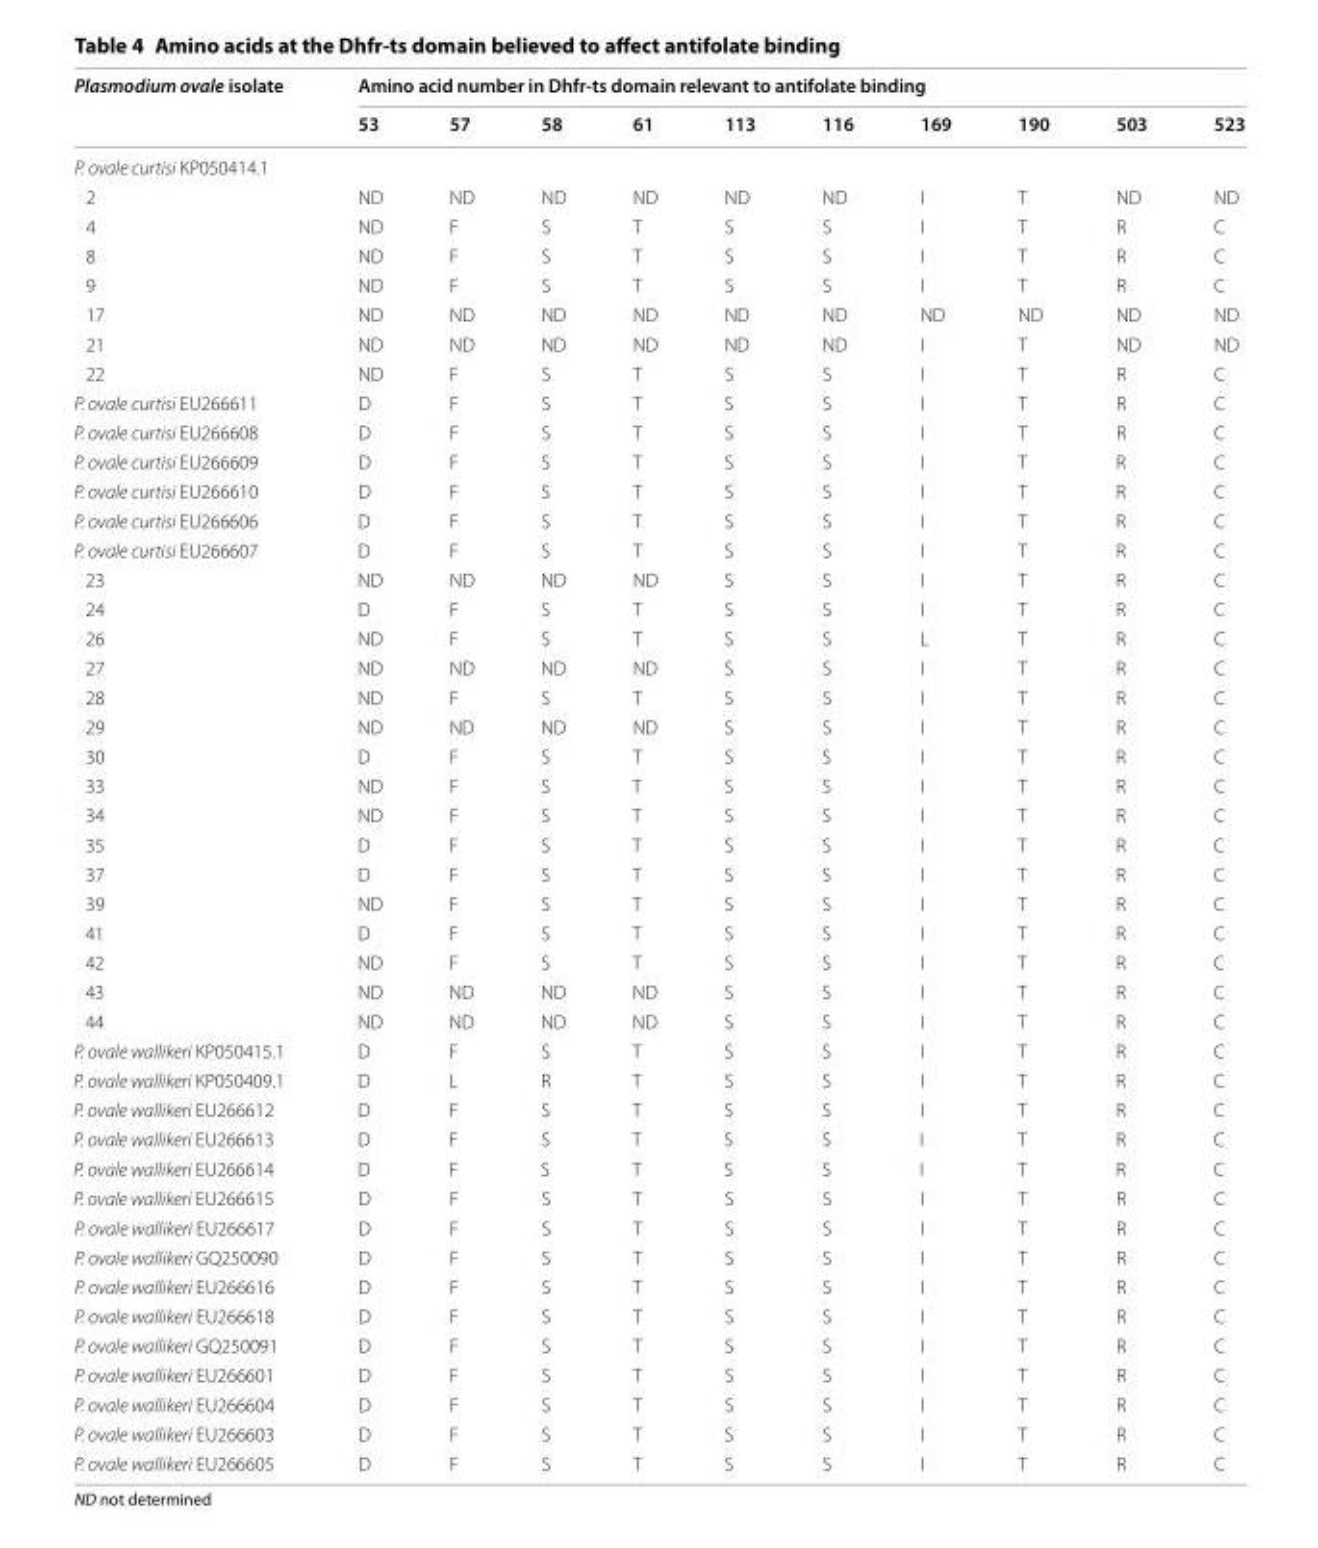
<table><thead><tr><td rowspan="2">Plasmodium ovale isolate</td><td colspan="10">Amino acid number in Dhfr‑ts domain relevant to antifolate binding</td></tr><tr><td>53</td><td>57</td><td>58</td><td>61</td><td>113</td><td>116</td><td>169</td><td>190</td><td>503</td><td>523</td></tr></thead><tbody><tr><td colspan="11">P. ovale curtisi KP050414.1</td></tr><tr><td>2</td><td>ND</td><td>ND</td><td>ND</td><td>ND</td><td>ND</td><td>ND</td><td>I</td><td>T</td><td>ND</td><td>ND</td></tr><tr><td>4</td><td>ND</td><td>F</td><td>S</td><td>T</td><td>S</td><td>S</td><td>I</td><td>T</td><td>R</td><td>C</td></tr><tr><td>8</td><td>ND</td><td>F</td><td>S</td><td>T</td><td>S</td><td>S</td><td>I</td><td>T</td><td>R</td><td>C</td></tr><tr><td>9</td><td>ND</td><td>F</td><td>S</td><td>T</td><td>S</td><td>S</td><td>I</td><td>T</td><td>R</td><td>C</td></tr><tr><td>17</td><td>ND</td><td>ND</td><td>ND</td><td>ND</td><td>ND</td><td>ND</td><td>ND</td><td>ND</td><td>ND</td><td>ND</td></tr><tr><td>21</td><td>ND</td><td>ND</td><td>ND</td><td>ND</td><td>ND</td><td>ND</td><td>I</td><td>T</td><td>ND</td><td>ND</td></tr><tr><td>22</td><td>ND</td><td>F</td><td>S</td><td>T</td><td>S</td><td>S</td><td>I</td><td>T</td><td>R</td><td>C</td></tr><tr><td>P. ovale curtisi EU266611</td><td>D</td><td>F</td><td>S</td><td>T</td><td>S</td><td>S</td><td>I</td><td>T</td><td>R</td><td>C</td></tr><tr><td>P. ovale curtisi EU266608</td><td>D</td><td>F</td><td>S</td><td>T</td><td>S</td><td>S</td><td>I</td><td>T</td><td>R</td><td>C</td></tr><tr><td>P. ovale curtisi EU266609</td><td>D</td><td>F</td><td>S</td><td>T</td><td>S</td><td>S</td><td>I</td><td>T</td><td>R</td><td>C</td></tr><tr><td>P. ovale curtisi EU266610</td><td>D</td><td>F</td><td>S</td><td>T</td><td>S</td><td>S</td><td>I</td><td>T</td><td>R</td><td>C</td></tr><tr><td>P. ovale curtisi EU266606</td><td>D</td><td>F</td><td>S</td><td>T</td><td>S</td><td>S</td><td>I</td><td>T</td><td>R</td><td>C</td></tr><tr><td>P. ovale curtisi EU266607</td><td>D</td><td>F</td><td>S</td><td>T</td><td>S</td><td>S</td><td>I</td><td>T</td><td>R</td><td>C</td></tr><tr><td>23</td><td>ND</td><td>ND</td><td>ND</td><td>ND</td><td>S</td><td>S</td><td>I</td><td>T</td><td>R</td><td>C</td></tr><tr><td>24</td><td>D</td><td>F</td><td>S</td><td>T</td><td>S</td><td>S</td><td>I</td><td>T</td><td>R</td><td>C</td></tr><tr><td>26</td><td>ND</td><td>F</td><td>S</td><td>T</td><td>S</td><td>S</td><td>L</td><td>T</td><td>R</td><td>C</td></tr><tr><td>27</td><td>ND</td><td>ND</td><td>ND</td><td>ND</td><td>S</td><td>S</td><td>I</td><td>T</td><td>R</td><td>C</td></tr><tr><td>28</td><td>ND</td><td>F</td><td>S</td><td>T</td><td>S</td><td>S</td><td>I</td><td>T</td><td>R</td><td>C</td></tr><tr><td>29</td><td>ND</td><td>ND</td><td>ND</td><td>ND</td><td>S</td><td>S</td><td>I</td><td>T</td><td>R</td><td>C</td></tr><tr><td>30</td><td>D</td><td>F</td><td>S</td><td>T</td><td>S</td><td>S</td><td>I</td><td>T</td><td>R</td><td>C</td></tr><tr><td>33</td><td>ND</td><td>F</td><td>S</td><td>T</td><td>S</td><td>S</td><td>I</td><td>T</td><td>R</td><td>C</td></tr><tr><td>34</td><td>ND</td><td>F</td><td>S</td><td>T</td><td>S</td><td>S</td><td>I</td><td>T</td><td>R</td><td>C</td></tr><tr><td>35</td><td>D</td><td>F</td><td>S</td><td>T</td><td>S</td><td>S</td><td>I</td><td>T</td><td>R</td><td>C</td></tr><tr><td>37</td><td>D</td><td>F</td><td>S</td><td>T</td><td>S</td><td>S</td><td>I</td><td>T</td><td>R</td><td>C</td></tr><tr><td>39</td><td>ND</td><td>F</td><td>S</td><td>T</td><td>S</td><td>S</td><td>I</td><td>T</td><td>R</td><td>C</td></tr><tr><td>41</td><td>D</td><td>F</td><td>S</td><td>T</td><td>S</td><td>S</td><td>I</td><td>T</td><td>R</td><td>C</td></tr><tr><td>42</td><td>ND</td><td>F</td><td>S</td><td>T</td><td>S</td><td>S</td><td>I</td><td>T</td><td>R</td><td>C</td></tr><tr><td>43</td><td>ND</td><td>ND</td><td>ND</td><td>ND</td><td>S</td><td>S</td><td>I</td><td>T</td><td>R</td><td>C</td></tr><tr><td>44</td><td>ND</td><td>ND</td><td>ND</td><td>ND</td><td>S</td><td>S</td><td>I</td><td>T</td><td>R</td><td>C</td></tr><tr><td>P. ovale wallikeri KP050415.1</td><td>D</td><td>F</td><td>S</td><td>T</td><td>S</td><td>S</td><td>I</td><td>T</td><td>R</td><td>C</td></tr><tr><td>P. ovale wallikeri KP050409.1</td><td>D</td><td>L</td><td>R</td><td>T</td><td>S</td><td>S</td><td>I</td><td>T</td><td>R</td><td>C</td></tr><tr><td>P. ovale wallikeri EU266612</td><td>D</td><td>F</td><td>S</td><td>T</td><td>S</td><td>S</td><td>I</td><td>T</td><td>R</td><td>C</td></tr><tr><td>P. ovale wallikeri EU266613</td><td>D</td><td>F</td><td>S</td><td>T</td><td>S</td><td>S</td><td>I</td><td>T</td><td>R</td><td>C</td></tr><tr><td>P. ovale wallikeri EU266614</td><td>D</td><td>F</td><td>S</td><td>T</td><td>S</td><td>S</td><td>I</td><td>T</td><td>R</td><td>C</td></tr><tr><td>P. ovale wallikeri EU266615</td><td>D</td><td>F</td><td>S</td><td>T</td><td>S</td><td>S</td><td>I</td><td>T</td><td>R</td><td>C</td></tr><tr><td>P. ovale wallikeri EU266617</td><td>D</td><td>F</td><td>S</td><td>T</td><td>S</td><td>S</td><td>I</td><td>T</td><td>R</td><td>C</td></tr><tr><td>P. ovale wallikeri GQ250090</td><td>D</td><td>F</td><td>S</td><td>T</td><td>S</td><td>S</td><td>I</td><td>T</td><td>R</td><td>C</td></tr><tr><td>P. ovale wallikeri EU266616</td><td>D</td><td>F</td><td>S</td><td>T</td><td>S</td><td>S</td><td>I</td><td>T</td><td>R</td><td>C</td></tr><tr><td>P. ovale wallikeri EU266618</td><td>D</td><td>F</td><td>S</td><td>T</td><td>S</td><td>S</td><td>I</td><td>T</td><td>R</td><td>C</td></tr><tr><td>P. ovale wallikeri GQ250091</td><td>D</td><td>F</td><td>S</td><td>T</td><td>S</td><td>S</td><td>I</td><td>T</td><td>R</td><td>C</td></tr><tr><td>P. ovale wallikeri EU266601</td><td>D</td><td>F</td><td>S</td><td>T</td><td>S</td><td>S</td><td>I</td><td>T</td><td>R</td><td>C</td></tr><tr><td>P. ovale wallikeri EU266604</td><td>D</td><td>F</td><td>S</td><td>T</td><td>S</td><td>S</td><td>I</td><td>T</td><td>R</td><td>C</td></tr><tr><td>P. ovale wallikeri EU266603</td><td>D</td><td>F</td><td>S</td><td>T</td><td>S</td><td>S</td><td>I</td><td>T</td><td>R</td><td>C</td></tr><tr><td>P. ovale wallikeri EU266605</td><td>D</td><td>F</td><td>S</td><td>T</td><td>S</td><td>S</td><td>I</td><td>T</td><td>R</td><td>C</td></tr></tbody></table>